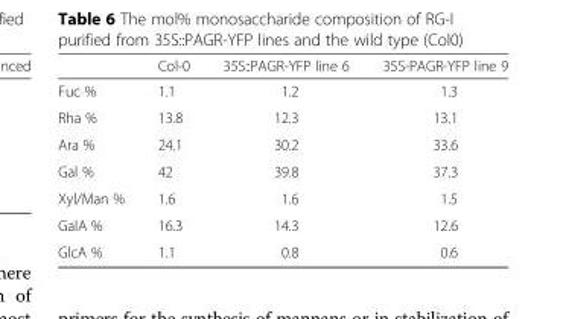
<table><thead><tr><td></td><td>Col-0</td><td>35S::PAGR-YFP line 6</td><td>35S-PAGR-YFP line 9</td></tr></thead><tbody><tr><td>Fuc %</td><td>1.1</td><td>1.2</td><td>1.3</td></tr><tr><td>Rha %</td><td>13.8</td><td>12.3</td><td>13.1</td></tr><tr><td>Ara %</td><td>24.1</td><td>30.2</td><td>33.6</td></tr><tr><td>Gal %</td><td>42</td><td>39.8</td><td>37.3</td></tr><tr><td>Xyl/Man %</td><td>1.6</td><td>1.6</td><td>1.5</td></tr><tr><td>GalA %</td><td>16.3</td><td>14.3</td><td>12.6</td></tr><tr><td>GlcA %</td><td>1.1</td><td>0.8</td><td>0.6</td></tr></tbody></table>